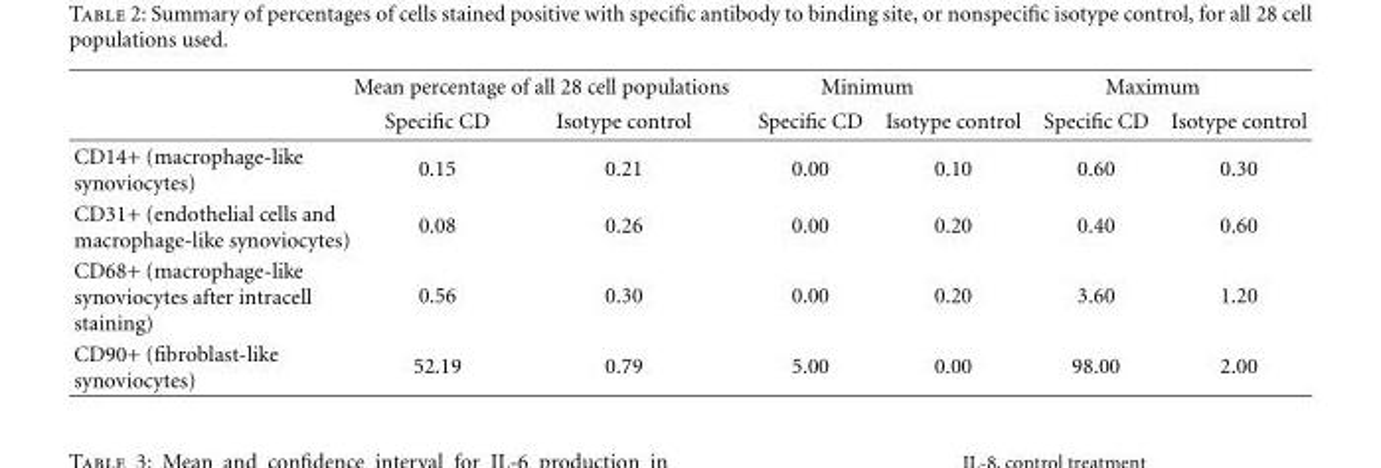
<table><thead><tr><td rowspan="2"></td><td colspan="2">Mean percentage of all 28 cell populations</td><td colspan="2">Minimum</td><td colspan="2">Maximum</td></tr><tr><td>Specific CD</td><td>Isotype control</td><td>Specific CD</td><td>Isotype control</td><td>Specific CD</td><td>Isotype control</td></tr></thead><tbody><tr><td>CD14+ (macrophage-like synoviocytes)</td><td>0.15</td><td>0.21</td><td>0.00</td><td>0.10</td><td>0.60</td><td>0.30</td></tr><tr><td>CD31+ (endothelial cells and macrophage-like synoviocytes)</td><td>0.08</td><td>0.26</td><td>0.00</td><td>0.20</td><td>0.40</td><td>0.60</td></tr><tr><td>CD68+ (macrophage-like synoviocytes after intracell staining)</td><td>0.56</td><td>0.30</td><td>0.00</td><td>0.20</td><td>3.60</td><td>1.20</td></tr><tr><td>CD90+ (fibroblast-like synoviocytes)</td><td>52.19</td><td>0.79</td><td>5.00</td><td>0.00</td><td>98.00</td><td>2.00</td></tr></tbody></table>